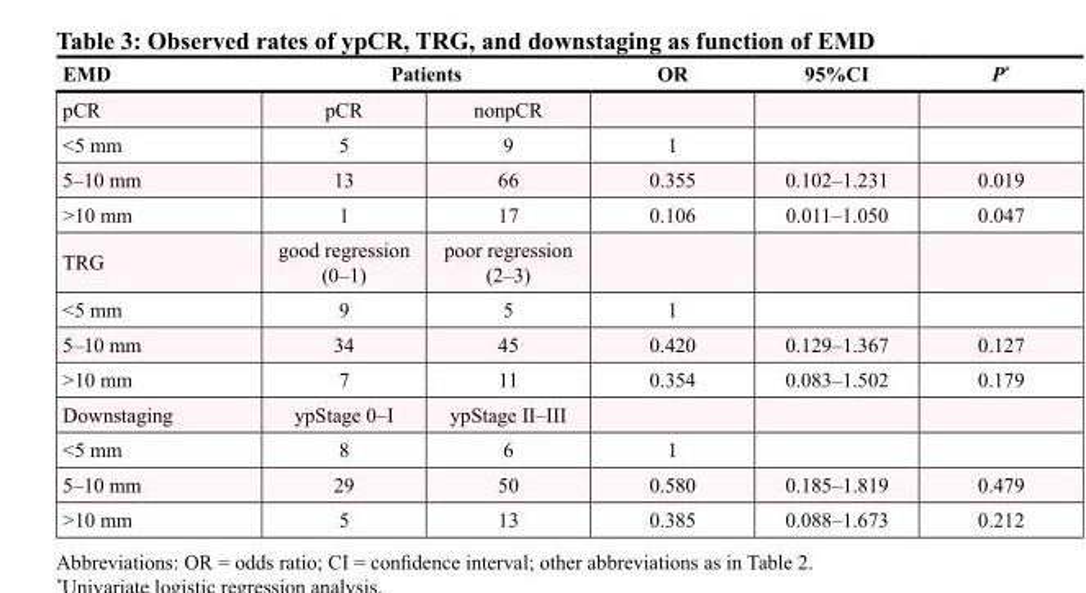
<table><thead><tr><td rowspan="2">EMD pCR</td><td colspan="2">Patients</td><td rowspan="2">OR</td><td rowspan="2">95%CI</td><td rowspan="2">P*</td></tr><tr><td>pCR</td><td>nonpCR</td></tr></thead><tbody><tr><td>&lt;5 mm</td><td>5</td><td>9</td><td>1</td><td></td><td></td></tr><tr><td>5–10 mm</td><td>13</td><td>66</td><td>0.355</td><td>0.102–1.231</td><td>0.019</td></tr><tr><td>&gt;10 mm</td><td>1</td><td>17</td><td>0.106</td><td>0.011–1.050</td><td>0.047</td></tr><tr><td>TRG</td><td>good regression (0–1)</td><td>poor regression (2–3)</td><td></td><td></td><td></td></tr><tr><td>&lt;5 mm</td><td>9</td><td>5</td><td>1</td><td></td><td></td></tr><tr><td>5–10 mm</td><td>34</td><td>45</td><td>0.420</td><td>0.129–1.367</td><td>0.127</td></tr><tr><td>&gt;10 mm</td><td>7</td><td>11</td><td>0.354</td><td>0.083–1.502</td><td>0.179</td></tr><tr><td>Downstaging</td><td>ypStage 0–I</td><td>ypStage II–III</td><td></td><td></td><td></td></tr><tr><td>&lt;5 mm</td><td>8</td><td>6</td><td>1</td><td></td><td></td></tr><tr><td>5–10 mm</td><td>29</td><td>50</td><td>0.580</td><td>0.185–1.819</td><td>0.479</td></tr><tr><td>&gt;10 mm</td><td>5</td><td>13</td><td>0.385</td><td>0.088–1.673</td><td>0.212</td></tr></tbody></table>